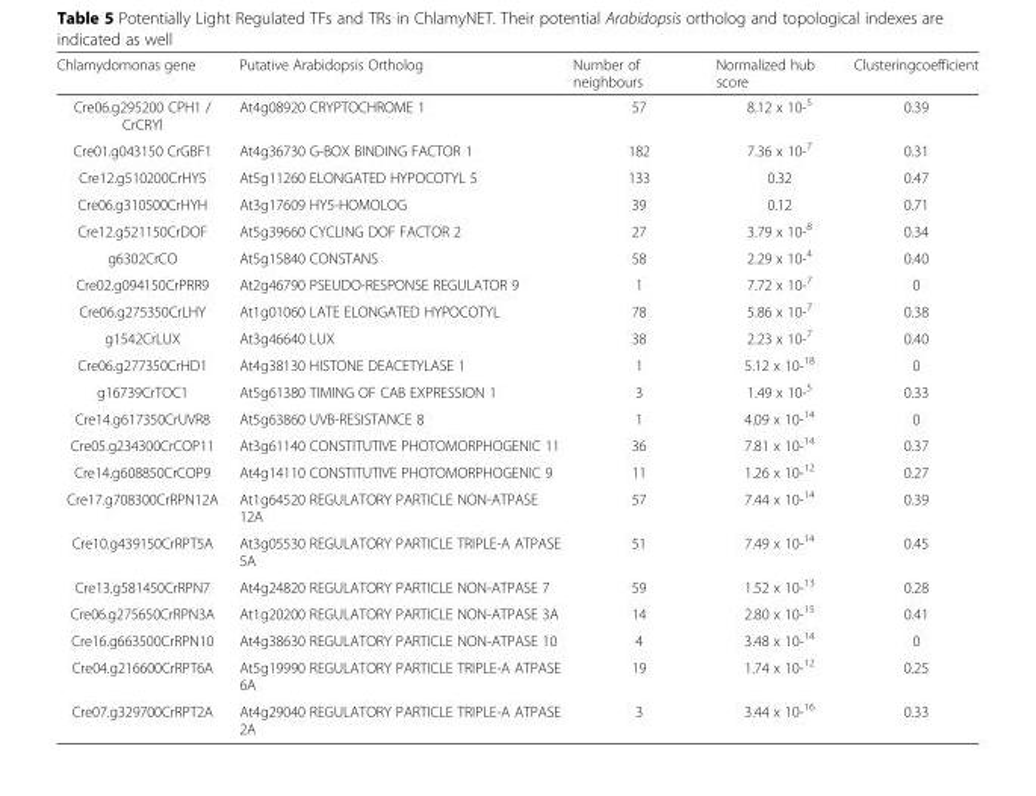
<table><thead><tr><td>Chlamydomonas gene</td><td>Putative Arabidopsis Ortholog</td><td>Number of neighbours</td><td>Normalized hub score</td><td>Clusteringcoefficient</td></tr></thead><tbody><tr><td>Cre06.g295200 CPH1 / CrCRYl</td><td>At4g08920 CRYPTOCHROME 1</td><td>57</td><td>8.12 x 10-<sup>5</sup></td><td>0.39</td></tr><tr><td>Cre01.g043150 CrGBF1</td><td>At4g36730 G-BOX BINDING FACTOR 1</td><td>182</td><td>7.36 x 10-<sup>7</sup></td><td>0.31</td></tr><tr><td>Cre12.g510200CrHY5</td><td>At5g11260 ELONGATED HYPOCOTYL 5</td><td>133</td><td>0.32</td><td>0.47</td></tr><tr><td>Cre06.g310500CrHYH</td><td>At3g17609 HY5-HOMOLOG</td><td>39</td><td>0.12</td><td>0.71</td></tr><tr><td>Cre12.g521150CrDOF</td><td>At5g39660 CYCLING DOF FACTOR 2</td><td>27</td><td>3.79 x 10-<sup>8</sup></td><td>0.34</td></tr><tr><td>g6302CrCO</td><td>At5g15840 CONSTANS</td><td>58</td><td>2.29 x 10-<sup>4</sup></td><td>0.40</td></tr><tr><td>Cre02.g094150CrPRR9</td><td>At2g46790 PSEUDO-RESPONSE REGULATOR 9</td><td>1</td><td>7.72 x 10-<sup>7</sup></td><td>0</td></tr><tr><td>Cre06.g275350CrLHY</td><td>At1g01060 LATE ELONGATED HYPOCOTYL</td><td>78</td><td>5.86 x 10-<sup>7</sup></td><td>0.38</td></tr><tr><td>g1542CrLUX</td><td>At3g46640 LUX</td><td>38</td><td>2.23 x 10-<sup>7</sup></td><td>0.40</td></tr><tr><td>Cre06.g277350CrHD1</td><td>At4g38130 HISTONE DEACETYLASE 1</td><td>1</td><td>5.12 x 10-<sup>18</sup></td><td>0</td></tr><tr><td>g16739CrTOC1</td><td>At5g61380 TIMING OF CAB EXPRESSION 1</td><td>3</td><td>1.49 x 10-<sup>5</sup></td><td>0.33</td></tr><tr><td>Cre14.g617350CrUVR8</td><td>At5g63860 UVB-RESISTANCE 8</td><td>1</td><td>4.09 x 10-<sup>14</sup></td><td>0</td></tr><tr><td>Cre05.g234300CrCOP11</td><td>At3g61140 CONSTITUTIVE PHOTOMORPHOGENIC 11</td><td>36</td><td>7.81 x 10-<sup>14</sup></td><td>0.37</td></tr><tr><td>Cre14.g608850CrCOP9</td><td>At4g14110 CONSTITUTIVE PHOTOMORPHOGENIC 9</td><td>11</td><td>1.26 x 10-<sup>12</sup></td><td>0.27</td></tr><tr><td>Cre17.g708300CrRPN12A</td><td>At1g64520 REGULATORY PARTICLE NON-ATPASE 12A</td><td>57</td><td>7.44 x 10-<sup>14</sup></td><td>0.39</td></tr><tr><td>Cre10.g439150CrRPT5A</td><td>At3g05530 REGULATORY PARTICLE TRIPLE-A ATPASE 5A</td><td>51</td><td>7.49 x 10-<sup>14</sup></td><td>0.45</td></tr><tr><td>Cre13.g581450CrRPN7</td><td>At4g24820 REGULATORY PARTICLE NON-ATPASE 7</td><td>59</td><td>1.52 x 10-<sup>13</sup></td><td>0.28</td></tr><tr><td>Cre06.g275650CrRPN3A</td><td>At1g20200 REGULATORY PARTICLE NON-ATPASE 3A</td><td>14</td><td>2.80 x 10-<sup>15</sup></td><td>0.41</td></tr><tr><td>Cre16.g663500CrRPN10</td><td>At4g38630 REGULATORY PARTICLE NON-ATPASE 10</td><td>4</td><td>3.48 x 10-<sup>14</sup></td><td>0</td></tr><tr><td>Cre04.g216600CrRPT6A</td><td>At5g19990 REGULATORY PARTICLE TRIPLE-A ATPASE 6A</td><td>19</td><td>1.74 x 10-<sup>12</sup></td><td>0.25</td></tr><tr><td>Cre07.g329700CrRPT2A</td><td>At4g29040 REGULATORY PARTICLE TRIPLE-A ATPASE 2A</td><td>3</td><td>3.44 x 10-<sup>16</sup></td><td>0.33</td></tr></tbody></table>